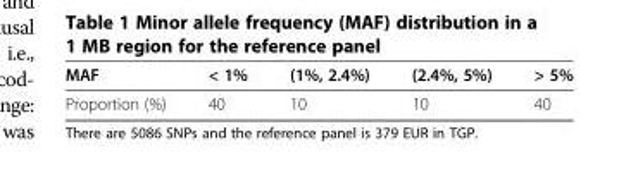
<table><thead><tr><td>MAF</td><td>&lt; 1%</td><td>(1%, 2.4%)</td><td>(2.4%, 5%)</td><td>&gt; 5%</td></tr></thead><tbody><tr><td>Proportion (%)</td><td>40</td><td>10</td><td>10</td><td>40</td></tr></tbody></table>